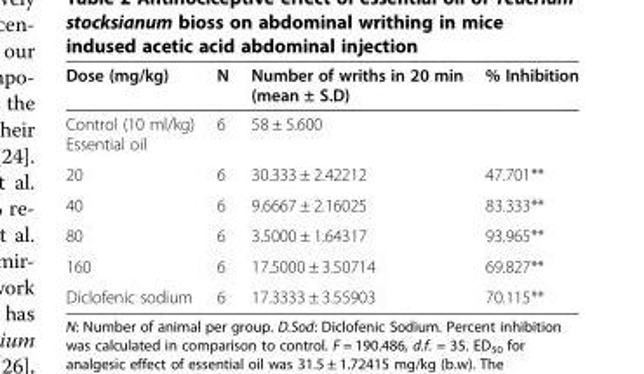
<table><thead><tr><td>Dose (mg/kg)</td><td>N</td><td>Number of wriths in 20 min (mean ± S.D)</td><td>% Inhibition</td></tr></thead><tbody><tr><td>Control (10 ml/kg) Essential oil</td><td>6</td><td>58 ± 5.600</td><td></td></tr><tr><td>20</td><td>6</td><td>30.333 ± 2.42212</td><td>47.701**</td></tr><tr><td>40</td><td>6</td><td>9.6667 ± 2.16025</td><td>83.333**</td></tr><tr><td>80</td><td>6</td><td>3.5000 ± 1.64317</td><td>93.965**</td></tr><tr><td>160</td><td>6</td><td>17.5000 ± 3.50714</td><td>69.827**</td></tr><tr><td>Diclofenic sodium</td><td>6</td><td>17.3333 ± 3.55903</td><td>70.115**</td></tr></tbody></table>